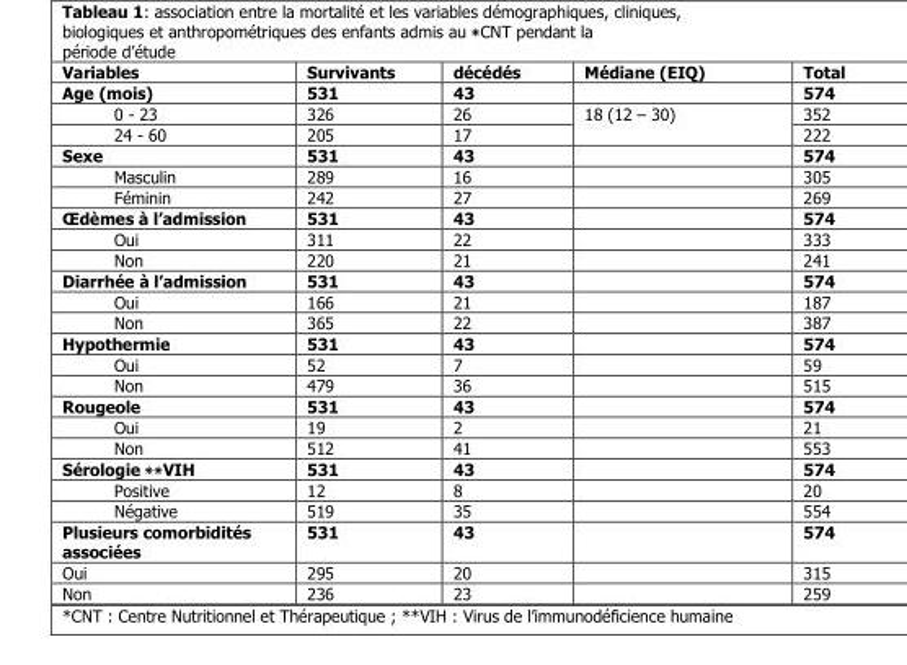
<table><thead><tr><td>Variables</td><td>Survivants</td><td>décédés</td><td>Médiane (EIQ)</td><td>Total</td></tr></thead><tbody><tr><td>Age (mois)</td><td>531</td><td>43</td><td></td><td>574</td></tr><tr><td>0 - 23</td><td>326</td><td>26</td><td rowspan="2">18 (12 Ŕ 30)</td><td>352</td></tr><tr><td>24 - 60</td><td>205</td><td>17</td><td>222</td></tr><tr><td>Sexe</td><td>531</td><td>43</td><td></td><td>574</td></tr><tr><td>Masculin</td><td>289</td><td>16</td><td></td><td>305</td></tr><tr><td>Féminin</td><td>242</td><td>27</td><td></td><td>269</td></tr><tr><td>Œdèmes à l’admission</td><td>531</td><td>43</td><td></td><td>574</td></tr><tr><td>Oui</td><td>311</td><td>22</td><td></td><td>333</td></tr><tr><td>Non</td><td>220</td><td>21</td><td></td><td>241</td></tr><tr><td>Diarrhée à l’admission</td><td>531</td><td>43</td><td></td><td>574</td></tr><tr><td>Oui</td><td>166</td><td>21</td><td></td><td>187</td></tr><tr><td>Non</td><td>365</td><td>22</td><td></td><td>387</td></tr><tr><td>Hypothermie</td><td>531</td><td>43</td><td></td><td>574</td></tr><tr><td>Oui</td><td>52</td><td>7</td><td></td><td>59</td></tr><tr><td>Non</td><td>479</td><td>36</td><td></td><td>515</td></tr><tr><td>Rougeole</td><td>531</td><td>43</td><td></td><td>574</td></tr><tr><td>Oui</td><td>19</td><td>2</td><td></td><td>21</td></tr><tr><td>Non</td><td>512</td><td>41</td><td></td><td>553</td></tr><tr><td>Sérologie ٭٭VIH</td><td>531</td><td>43</td><td></td><td>574</td></tr><tr><td>Positive</td><td>12</td><td>8</td><td></td><td>20</td></tr><tr><td>Négative</td><td>519</td><td>35</td><td></td><td>554</td></tr><tr><td>Plusieurs comorbidités associées</td><td>531</td><td>43</td><td></td><td>574</td></tr><tr><td>Oui</td><td>295</td><td>20</td><td></td><td>315</td></tr><tr><td>Non</td><td>236</td><td>23</td><td></td><td>259</td></tr></tbody></table>